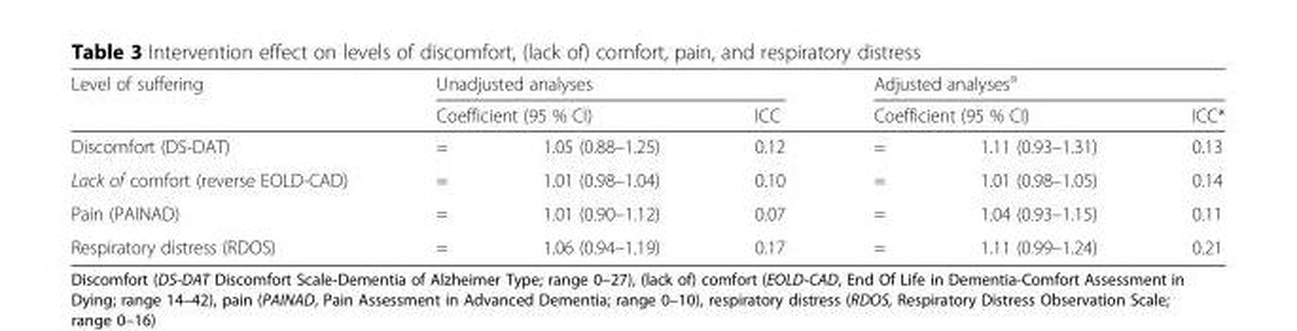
<table><thead><tr><td rowspan="3">Level of suffering Discomfort (DS-DAT)</td><td colspan="3">Unadjusted analyses</td><td colspan="3">Adjusted analyses<sup>a</sup></td></tr><tr><td colspan="2">Coefficient (95 % CI)</td><td rowspan="2">ICC 0.12</td><td colspan="2">Coefficient (95 % CI)</td><td rowspan="2">ICC* 0.13</td></tr><tr><td>=</td><td>1.05 (0.88–1.25)</td><td>=</td><td>1.11 (0.93–1.31)</td></tr></thead><tbody><tr><td>Lack of comfort (reverse EOLD-CAD)</td><td>=</td><td>1.01 (0.98–1.04)</td><td>0.10</td><td>=</td><td>1.01 (0.98–1.05)</td><td>0.14</td></tr><tr><td>Pain (PAINAD)</td><td>=</td><td>1.01 (0.90–1.12)</td><td>0.07</td><td>=</td><td>1.04 (0.93–1.15)</td><td>0.11</td></tr><tr><td>Respiratory distress (RDOS)</td><td>=</td><td>1.06 (0.94–1.19)</td><td>0.17</td><td>=</td><td>1.11 (0.99–1.24)</td><td>0.21</td></tr></tbody></table>